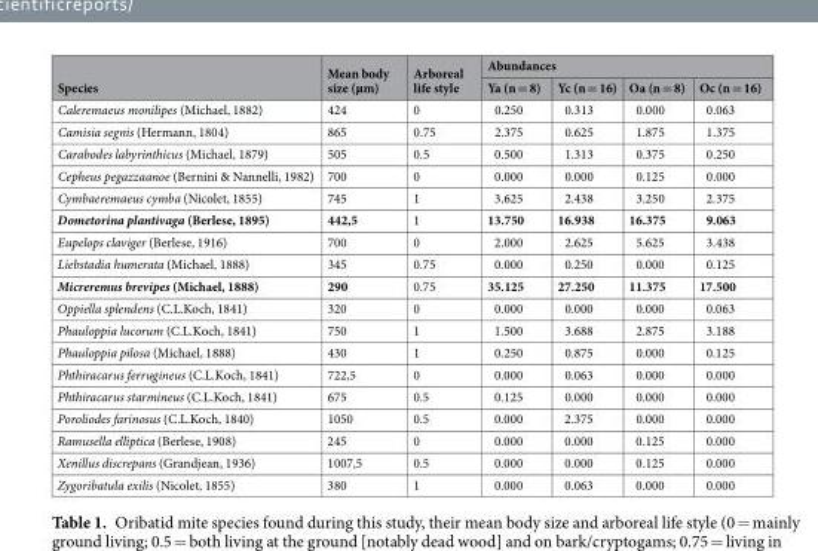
<table><thead><tr><td rowspan="2">Species</td><td rowspan="2">Mean body size (µm)</td><td rowspan="2">Arboreal life style</td><td colspan="4">Abundances</td></tr><tr><td>Ya (n = 8)</td><td>Yc (n = 16)</td><td>Oa (n = 8)</td><td>Oc (n = 16)</td></tr></thead><tbody><tr><td>Caleremaeus monilipes (Michael, 1882)</td><td>424</td><td>0</td><td>0.250</td><td>0.313</td><td>0.000</td><td>0.063</td></tr><tr><td>Camisia segnis (Hermann, 1804)</td><td>865</td><td>0.75</td><td>2.375</td><td>0.625</td><td>1.875</td><td>1.375</td></tr><tr><td>Carabodes labyrinthicus (Michael, 1879)</td><td>505</td><td>0.5</td><td>0.500</td><td>1.313</td><td>0.375</td><td>0.250</td></tr><tr><td>Cepheus pegazzaanoe (Bernini &amp; Nannelli, 1982)</td><td>700</td><td>0</td><td>0.000</td><td>0.000</td><td>0.125</td><td>0.000</td></tr><tr><td>Cymbaeremaeus cymba (Nicolet, 1855)</td><td>745</td><td>1</td><td>3.625</td><td>2.438</td><td>3.250</td><td>2.375</td></tr><tr><td>Dometorina plantivaga (Berlese, 1895)</td><td>442,5</td><td>1</td><td>13.750</td><td>16.938</td><td>16.375</td><td>9.063</td></tr><tr><td>Eupelops claviger (Berlese, 1916)</td><td>700</td><td>0</td><td>2.000</td><td>2.625</td><td>5.625</td><td>3.438</td></tr><tr><td>Liebstadia humerata (Michael, 1888)</td><td>345</td><td>0.75</td><td>0.000</td><td>0.250</td><td>0.000</td><td>0.125</td></tr><tr><td>Micreremus brevipes (Michael, 1888)</td><td>290</td><td>0.75</td><td>35.125</td><td>27.250</td><td>11.375</td><td>17.500</td></tr><tr><td>Oppiella splendens (C.L.Koch, 1841)</td><td>320</td><td>0</td><td>0.000</td><td>0.000</td><td>0.000</td><td>0.063</td></tr><tr><td>Phauloppia lucorum (C.L.Koch, 1841)</td><td>750</td><td>1</td><td>1.500</td><td>3.688</td><td>2.875</td><td>3.188</td></tr><tr><td>Phauloppia pilosa (Michael, 1888)</td><td>430</td><td>1</td><td>0.250</td><td>0.875</td><td>0.000</td><td>0.125</td></tr><tr><td>Phthiracarus ferrugineus (C.L.Koch, 1841)</td><td>722,5</td><td>0</td><td>0.000</td><td>0.063</td><td>0.000</td><td>0.000</td></tr><tr><td>Phthiracarus starmineus (C.L.Koch, 1841)</td><td>675</td><td>0.5</td><td>0.125</td><td>0.000</td><td>0.000</td><td>0.000</td></tr><tr><td>Poroliodes farinosus (C.L.Koch, 1840)</td><td>1050</td><td>0.5</td><td>0.000</td><td>2.375</td><td>0.000</td><td>0.000</td></tr><tr><td>Ramusella elliptica (Berlese, 1908)</td><td>245</td><td>0</td><td>0.000</td><td>0.000</td><td>0.125</td><td>0.000</td></tr><tr><td>Xenillus discrepans (Grandjean, 1936)</td><td>1007,5</td><td>0.5</td><td>0.000</td><td>0.000</td><td>0.125</td><td>0.000</td></tr><tr><td>Zygoribatula exilis (Nicolet, 1855)</td><td>380</td><td>1</td><td>0.000</td><td>0.063</td><td>0.000</td><td>0.000</td></tr></tbody></table>